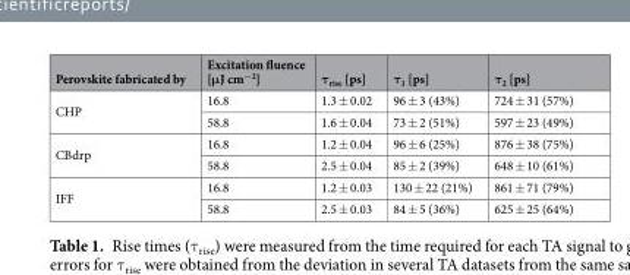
<table><thead><tr><td>Perovskite fabricated by</td><td>Excitation fluence [μJ cm<sup>−2</sup>]</td><td>τ<sub>rise</sub> [ps]</td><td>τ<sub>1</sub> [ps]</td><td>τ<sub>2</sub> [ps]</td></tr></thead><tbody><tr><td rowspan="2">CHP</td><td>16.8</td><td>1.3 ± 0.02</td><td>96 ± 3 (43%)</td><td>724 ± 31 (57%)</td></tr><tr><td>58.8</td><td>1.6 ± 0.04</td><td>73 ± 2 (51%)</td><td>597 ± 23 (49%)</td></tr><tr><td rowspan="2">CBdrp</td><td>16.8</td><td>1.2 ± 0.04</td><td>96 ± 6 (25%)</td><td>876 ± 38 (75%)</td></tr><tr><td>58.8</td><td>2.5 ± 0.04</td><td>85 ± 2 (39%)</td><td>648 ± 10 (61%)</td></tr><tr><td rowspan="2">IFF</td><td>16.8</td><td>1.2 ± 0.03</td><td>130 ± 22 (21%)</td><td>861 ± 71 (79%)</td></tr><tr><td>58.8</td><td>2.5 ± 0.03</td><td>84 ± 5 (36%)</td><td>625 ± 25 (64%)</td></tr></tbody></table>